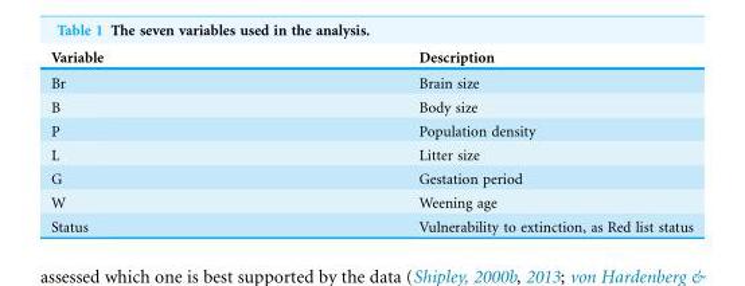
<table><thead><tr><td>Variable</td><td>Description</td></tr></thead><tbody><tr><td>Br</td><td>Brain size</td></tr><tr><td>B</td><td>Body size</td></tr><tr><td>P</td><td>Population density</td></tr><tr><td>L</td><td>Litter size</td></tr><tr><td>G</td><td>Gestation period</td></tr><tr><td>W</td><td>Weening age</td></tr><tr><td>Status</td><td>Vulnerability to extinction, as Red list status</td></tr></tbody></table>